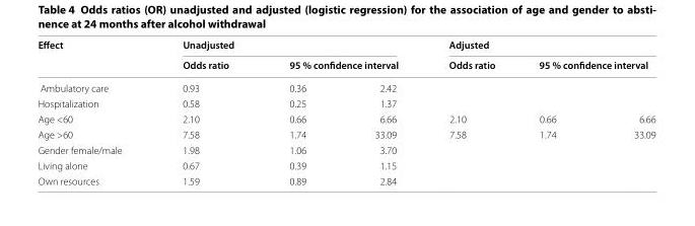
<table><thead><tr><td rowspan="3">Effect Ambulatory care</td><td colspan="3">Unadjusted</td><td colspan="3">Adjusted</td></tr><tr><td rowspan="2">Odds ratio 0.93</td><td colspan="2">95 % confidence interval</td><td rowspan="2">Odds ratio</td><td colspan="2">95 % confidence interval</td></tr><tr><td>0.36</td><td>2.42</td><td></td><td></td></tr></thead><tbody><tr><td>Hospitalization</td><td>0.58</td><td>0.25</td><td>1.37</td><td></td><td></td><td></td></tr><tr><td>Age &lt;60</td><td>2.10</td><td>0.66</td><td>6.66</td><td>2.10</td><td>0.66</td><td>6.66</td></tr><tr><td>Age &gt;60</td><td>7.58</td><td>1.74</td><td>33.09</td><td>7.58</td><td>1.74</td><td>33.09</td></tr><tr><td>Gender female/male</td><td>1.98</td><td>1.06</td><td>3.70</td><td></td><td></td><td></td></tr><tr><td>Living alone</td><td>0.67</td><td>0.39</td><td>1.15</td><td></td><td></td><td></td></tr><tr><td>Own resources</td><td>1.59</td><td>0.89</td><td>2.84</td><td></td><td></td><td></td></tr></tbody></table>